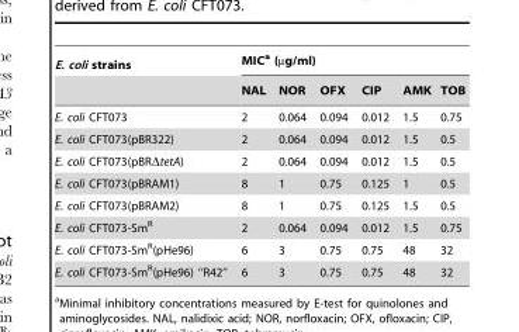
<table><thead><tr><td rowspan="2">E. coli strains</td><td colspan="6">MIC<sup>a</sup> (µg/ml)</td></tr><tr><td>NAL</td><td>NOR</td><td>OFX</td><td>CIP</td><td>AMK</td><td>TOB</td></tr></thead><tbody><tr><td>E. coli CFT073</td><td>2</td><td>0.064</td><td>0.094</td><td>0.012</td><td>1.5</td><td>0.75</td></tr><tr><td>E. coli CFT073(pBR322)</td><td>2</td><td>0.064</td><td>0.094</td><td>0.012</td><td>1.5</td><td>0.5</td></tr><tr><td>E. coli CFT073(pBRΔtetA)</td><td>2</td><td>0.064</td><td>0.094</td><td>0.012</td><td>1.5</td><td>0.5</td></tr><tr><td>E. coli CFT073(pBRAM1)</td><td>8</td><td>1</td><td>0.75</td><td>0.125</td><td>1</td><td>0.5</td></tr><tr><td>E. coli CFT073(pBRAM2)</td><td>8</td><td>1</td><td>0.75</td><td>0.125</td><td>1.5</td><td>0.5</td></tr><tr><td>E. coli CFT073-Sm<sup>R</sup></td><td>2</td><td>0.064</td><td>0.094</td><td>0.012</td><td>1.5</td><td>0.75</td></tr><tr><td>E. coli CFT073-Sm<sup>R</sup>(pHe96)</td><td>6</td><td>3</td><td>0.75</td><td>0.75</td><td>48</td><td>32</td></tr><tr><td>E. coli CFT073-SmR(pHe96) ‘‘R42’’</td><td>6</td><td>3</td><td>0.75</td><td>0.75</td><td>48</td><td>32</td></tr></tbody></table>